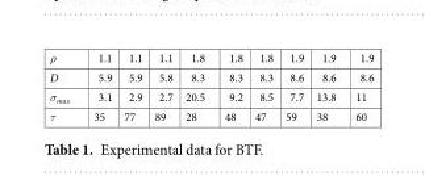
<table><tbody><tr><td>ρ</td><td>1.1</td><td>1.1</td><td>1.1</td><td>1.8</td><td>1.8</td><td>1.8</td><td>1.9</td><td>1.9</td><td>1.9</td></tr><tr><td>D</td><td>5.9</td><td>5.9</td><td>5.8</td><td>8.3</td><td>8.3</td><td>8.3</td><td>8.6</td><td>8.6</td><td>8.6</td></tr><tr><td>σ<sub>max</sub></td><td>3.1</td><td>2.9</td><td>2.7</td><td>20.5</td><td>9.2</td><td>8.5</td><td>7.7</td><td>13.8</td><td>11</td></tr><tr><td>τ</td><td>35</td><td>77</td><td>89</td><td>28</td><td>48</td><td>47</td><td>59</td><td>38</td><td>60</td></tr></tbody></table>